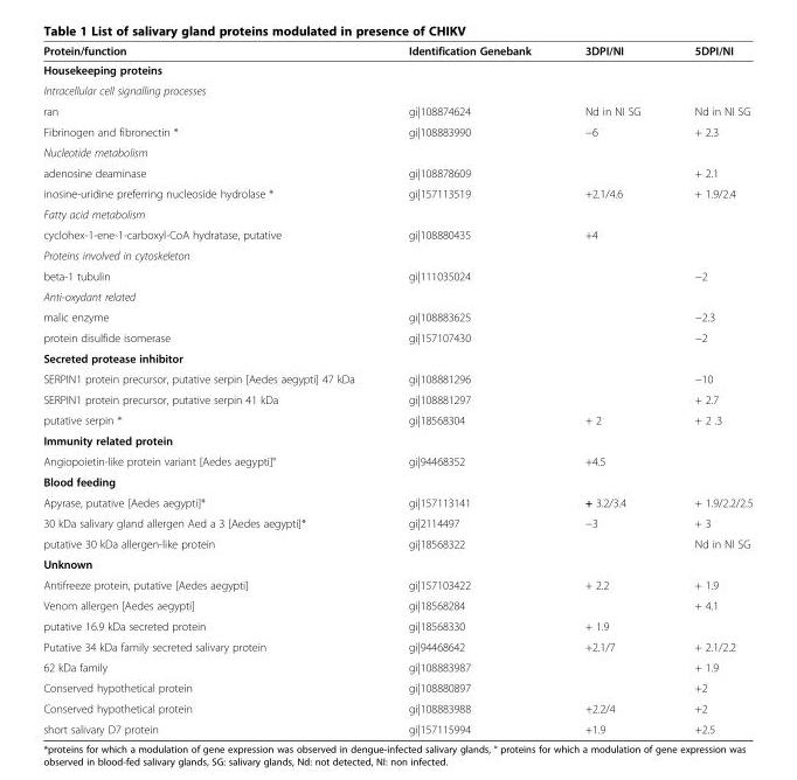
<table><thead><tr><td>Protein/function</td><td>Identification Genebank</td><td>3DPI/NI</td><td>5DPI/NI</td></tr></thead><tbody><tr><td colspan="4">Housekeeping proteins</td></tr><tr><td colspan="4">Intracellular cell signalling processes</td></tr><tr><td>ran</td><td>gi|108874624</td><td>Nd in NI SG</td><td>Nd in NI SG</td></tr><tr><td>Fibrinogen and fibronectin *</td><td>gi|108883990</td><td>−6</td><td>+ 2.3</td></tr><tr><td colspan="4">Nucleotide metabolism</td></tr><tr><td>adenosine deaminase</td><td>gi|108878609</td><td></td><td>+ 2.1</td></tr><tr><td>inosine-uridine preferring nucleoside hydrolase *</td><td>gi|157113519</td><td>+2.1/4.6</td><td>+ 1.9/2.4</td></tr><tr><td colspan="4">Fatty acid metabolism</td></tr><tr><td>cyclohex-1-ene-1-carboxyl-CoA hydratase, putative</td><td>gi|108880435</td><td>+4</td><td></td></tr><tr><td colspan="4">Proteins involved in cytoskeleton</td></tr><tr><td>beta-1 tubulin</td><td>gi|111035024</td><td></td><td>−2</td></tr><tr><td colspan="4">Anti-oxydant related</td></tr><tr><td>malic enzyme</td><td>gi|108883625</td><td></td><td>−2.3</td></tr><tr><td>protein disulfide isomerase</td><td>gi|157107430</td><td></td><td>−2</td></tr><tr><td colspan="4">Secreted protease inhibitor</td></tr><tr><td>SERPIN1 protein precursor, putative serpin [Aedes aegypti] 47 kDa</td><td>gi|108881296</td><td></td><td>−10</td></tr><tr><td>SERPIN1 protein precursor, putative serpin 41 kDa</td><td>gi|108881297</td><td></td><td>+ 2.7</td></tr><tr><td>putative serpin *</td><td>gi|18568304</td><td>+ 2</td><td>+ 2 .3</td></tr><tr><td colspan="4">Immunity related protein</td></tr><tr><td>Angiopoietin-like protein variant [Aedes aegypti]°</td><td>gi|94468352</td><td>+4.5</td><td></td></tr><tr><td colspan="4">Blood feeding</td></tr><tr><td>Apyrase, putative [Aedes aegypti]*</td><td>gi|157113141</td><td>+ 3.2/3.4</td><td>+ 1.9/2.2/2.5</td></tr><tr><td>30 kDa salivary gland allergen Aed a 3 [Aedes aegypti]*</td><td>gi|2114497</td><td>−3</td><td>+ 3</td></tr><tr><td>putative 30 kDa allergen-like protein</td><td>gi|18568322</td><td></td><td>Nd in NI SG</td></tr><tr><td colspan="4">Unknown</td></tr><tr><td>Antifreeze protein, putative [Aedes aegypti]</td><td>gi|157103422</td><td>+ 2.2</td><td>+ 1.9</td></tr><tr><td>Venom allergen [Aedes aegypti]</td><td>gi|18568284</td><td></td><td>+ 4.1</td></tr><tr><td>putative 16.9 kDa secreted protein</td><td>gi|18568330</td><td>+ 1.9</td><td></td></tr><tr><td>Putative 34 kDa family secreted salivary protein</td><td>gi|94468642</td><td>+2.1/7</td><td>+ 2.1/2.2</td></tr><tr><td>62 kDa family</td><td>gi|108883987</td><td></td><td>+ 1.9</td></tr><tr><td>Conserved hypothetical protein</td><td>gi|108880897</td><td></td><td>+2</td></tr><tr><td>Conserved hypothetical protein</td><td>gi|108883988</td><td>+2.2/4</td><td>+2</td></tr><tr><td>short salivary D7 protein</td><td>gi|157115994</td><td>+1.9</td><td>+2.5</td></tr></tbody></table>